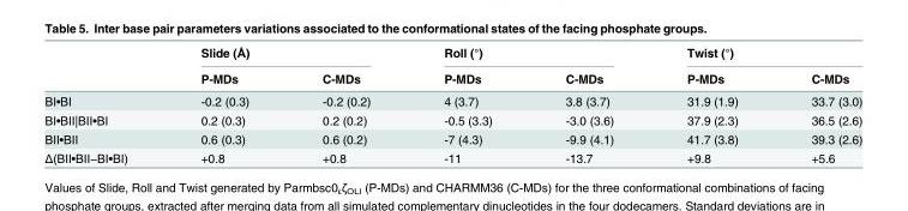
<table><thead><tr><td rowspan="2"></td><td colspan="2">Slide (Å)</td><td colspan="2">Roll (°)</td><td colspan="2">Twist (°)</td></tr><tr><td>P-MDs</td><td>C-MDs</td><td>P-MDs</td><td>C-MDs</td><td>P-MDs</td><td>C-MDs</td></tr></thead><tbody><tr><td>BI•BI</td><td>-0.2 (0.3)</td><td>-0.2 (0.2)</td><td>4 (3.7)</td><td>3.8 (3.7)</td><td>31.9 (1.9)</td><td>33.7 (3.0)</td></tr><tr><td>BI•BII|BII•BI</td><td>0.2 (0.3)</td><td>0.2 (0.2)</td><td>-0.5 (3.3)</td><td>-3.0 (3.6)</td><td>37.9 (2.3)</td><td>36.5 (2.6)</td></tr><tr><td>BII•BII</td><td>0.6 (0.3)</td><td>0.6 (0.2)</td><td>-7 (4.3)</td><td>-9.9 (4.1)</td><td>41.7 (3.8)</td><td>39.3 (2.6)</td></tr><tr><td>Δ(BII•BII−BI•BI)</td><td>+0.8</td><td>+0.8</td><td>-11</td><td>-13.7</td><td>+9.8</td><td>+5.6</td></tr></tbody></table>